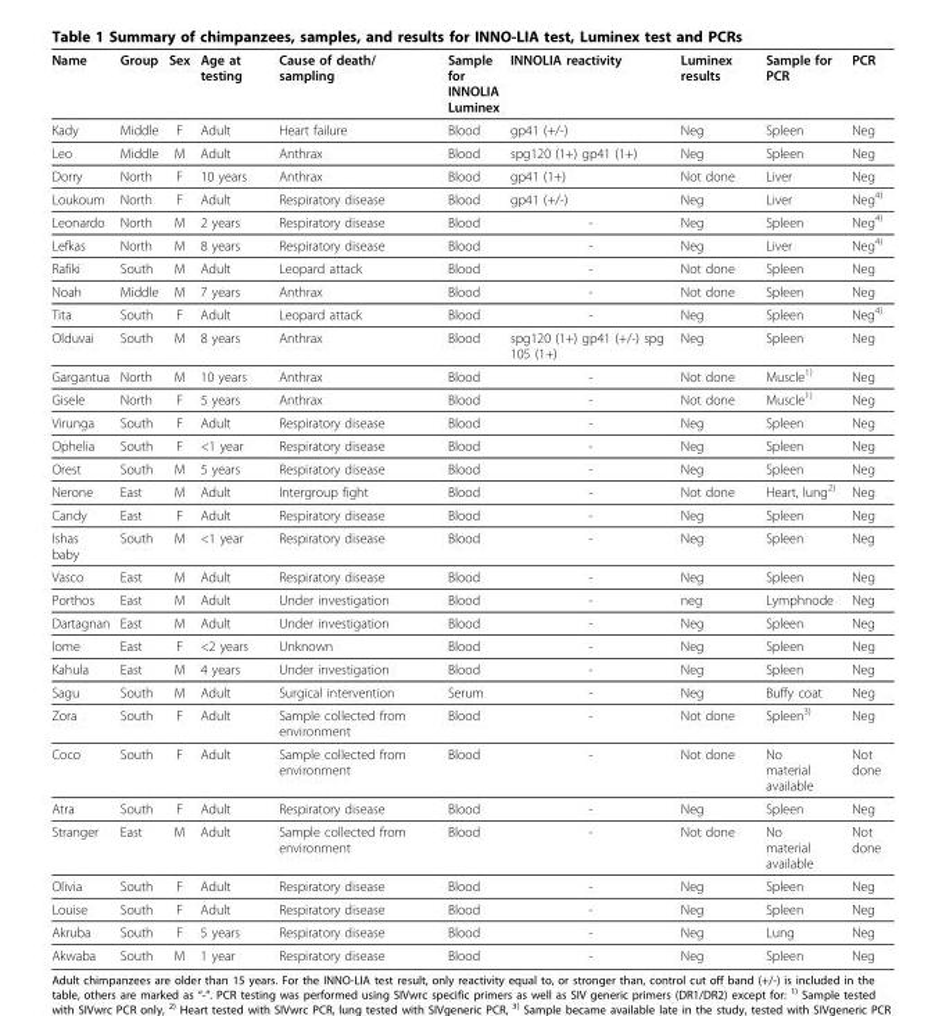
<table><thead><tr><td>Name</td><td>Group</td><td>Sex</td><td>Age at testing</td><td>Cause of death/ sampling</td><td>Sample for INNOLIA Luminex</td><td>INNOLIA reactivity</td><td>Luminex results</td><td>Sample for PCR</td><td>PCR</td></tr></thead><tbody><tr><td>Kady</td><td>Middle</td><td>F</td><td>Adult</td><td>Heart failure</td><td>Blood</td><td>gp41 (+/-)</td><td>Neg</td><td>Spleen</td><td>Neg</td></tr><tr><td>Leo</td><td>Middle</td><td>M</td><td>Adult</td><td>Anthrax</td><td>Blood</td><td>spg120 (1+) gp41 (1+)</td><td>Neg</td><td>Spleen</td><td>Neg</td></tr><tr><td>Dorry</td><td>North</td><td>F</td><td>10 years</td><td>Anthrax</td><td>Blood</td><td>gp41 (1+)</td><td>Not done</td><td>Liver</td><td>Neg</td></tr><tr><td>Loukoum</td><td>North</td><td>F</td><td>Adult</td><td>Respiratory disease</td><td>Blood</td><td>gp41 (+/-)</td><td>Neg</td><td>Liver</td><td>Neg<sup>4)</sup></td></tr><tr><td>Leonardo</td><td>North</td><td>M</td><td>2 years</td><td>Respiratory disease</td><td>Blood</td><td>-</td><td>Neg</td><td>Spleen</td><td>Neg<sup>4)</sup></td></tr><tr><td>Lefkas</td><td>North</td><td>M</td><td>8 years</td><td>Respiratory disease</td><td>Blood</td><td>-</td><td>Neg</td><td>Liver</td><td>Neg<sup>4)</sup></td></tr><tr><td>Rafiki</td><td>South</td><td>M</td><td>Adult</td><td>Leopard attack</td><td>Blood</td><td>-</td><td>Not done</td><td>Spleen</td><td>Neg</td></tr><tr><td>Noah</td><td>Middle</td><td>M</td><td>7 years</td><td>Anthrax</td><td>Blood</td><td>-</td><td>Not done</td><td>Spleen</td><td>Neg</td></tr><tr><td>Tita</td><td>South</td><td>F</td><td>Adult</td><td>Leopard attack</td><td>Blood</td><td>-</td><td>Neg</td><td>Spleen</td><td>Neg<sup>4)</sup></td></tr><tr><td>Olduvai</td><td>South</td><td>M</td><td>8 years</td><td>Anthrax</td><td>Blood</td><td>spg120 (1+) gp41 (+/-) spg 105 (1+)</td><td>Neg</td><td>Spleen</td><td>Neg</td></tr><tr><td>Gargantua</td><td>North</td><td>M</td><td>10 years</td><td>Anthrax</td><td>Blood</td><td>-</td><td>Not done</td><td>Muscle<sup>1)</sup></td><td>Neg</td></tr><tr><td>Gisele</td><td>North</td><td>F</td><td>5 years</td><td>Anthrax</td><td>Blood</td><td>-</td><td>Not done</td><td>Muscle<sup>1)</sup></td><td>Neg</td></tr><tr><td>Virunga</td><td>South</td><td>F</td><td>Adult</td><td>Respiratory disease</td><td>Blood</td><td>-</td><td>Neg</td><td>Spleen</td><td>Neg</td></tr><tr><td>Ophelia</td><td>South</td><td>F</td><td>&lt;1 year</td><td>Respiratory disease</td><td>Blood</td><td>-</td><td>Neg</td><td>Spleen</td><td>Neg</td></tr><tr><td>Orest</td><td>South</td><td>M</td><td>5 years</td><td>Respiratory disease</td><td>Blood</td><td>-</td><td>Neg</td><td>Spleen</td><td>Neg</td></tr><tr><td>Nerone</td><td>East</td><td>M</td><td>Adult</td><td>Intergroup fight</td><td>Blood</td><td>-</td><td>Not done</td><td>Heart, lung<sup>2)</sup></td><td>Neg</td></tr><tr><td>Candy</td><td>East</td><td>F</td><td>Adult</td><td>Respiratory disease</td><td>Blood</td><td>-</td><td>Neg</td><td>Spleen</td><td>Neg</td></tr><tr><td>Ishas baby</td><td>South</td><td>M</td><td>&lt;1 year</td><td>Respiratory disease</td><td>Blood</td><td>-</td><td>Neg</td><td>Spleen</td><td>Neg</td></tr><tr><td>Vasco</td><td>East</td><td>M</td><td>Adult</td><td>Respiratory disease</td><td>Blood</td><td>-</td><td>Neg</td><td>Spleen</td><td>Neg</td></tr><tr><td>Porthos</td><td>East</td><td>M</td><td>Adult</td><td>Under investigation</td><td>Blood</td><td>-</td><td>neg</td><td>Lymphnode</td><td>Neg</td></tr><tr><td>Dartagnan</td><td>East</td><td>M</td><td>Adult</td><td>Under investigation</td><td>Blood</td><td>-</td><td>Neg</td><td>Spleen</td><td>Neg</td></tr><tr><td>Iome</td><td>East</td><td>F</td><td>&lt;2 years</td><td>Unknown</td><td>Blood</td><td>-</td><td>Neg</td><td>Spleen</td><td>Neg</td></tr><tr><td>Kahula</td><td>East</td><td>M</td><td>4 years</td><td>Under investigation</td><td>Blood</td><td>-</td><td>Neg</td><td>Spleen</td><td>Neg</td></tr><tr><td>Sagu</td><td>South</td><td>M</td><td>Adult</td><td>Surgical intervention</td><td>Serum</td><td>-</td><td>Neg</td><td>Buffy coat</td><td>Neg</td></tr><tr><td>Zora</td><td>South</td><td>F</td><td>Adult</td><td>Sample collected from environment</td><td>Blood</td><td>-</td><td>Not done</td><td>Spleen<sup>3)</sup></td><td>Neg</td></tr><tr><td>Coco</td><td>South</td><td>F</td><td>Adult</td><td>Sample collected from environment</td><td>Blood</td><td>-</td><td>Not done</td><td>No material available</td><td>Not done</td></tr><tr><td>Atra</td><td>South</td><td>F</td><td>Adult</td><td>Respiratory disease</td><td>Blood</td><td>-</td><td>Neg</td><td>Spleen</td><td>Neg</td></tr><tr><td>Stranger</td><td>East</td><td>M</td><td>Adult</td><td>Sample collected from environment</td><td>Blood</td><td>-</td><td>Not done</td><td>No material available</td><td>Not done</td></tr><tr><td>Olivia</td><td>South</td><td>F</td><td>Adult</td><td>Respiratory disease</td><td>Blood</td><td>-</td><td>Neg</td><td>Spleen</td><td>Neg</td></tr><tr><td>Louise</td><td>South</td><td>F</td><td>Adult</td><td>Respiratory disease</td><td>Blood</td><td>-</td><td>Neg</td><td>Spleen</td><td>Neg</td></tr><tr><td>Akruba</td><td>South</td><td>F</td><td>5 years</td><td>Respiratory disease</td><td>Blood</td><td>-</td><td>Neg</td><td>Lung</td><td>Neg</td></tr><tr><td>Akwaba</td><td>South</td><td>M</td><td>1 year</td><td>Respiratory disease</td><td>Blood</td><td>-</td><td>Neg</td><td>Spleen</td><td>Neg</td></tr></tbody></table>